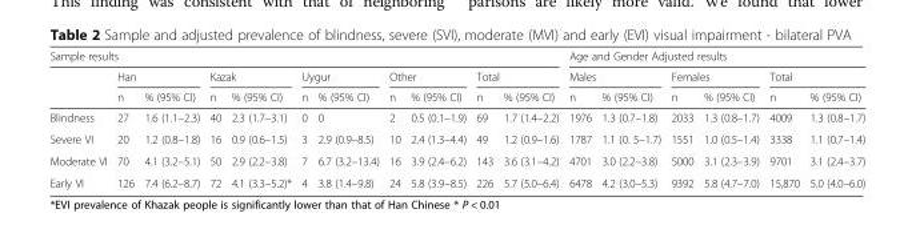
<table><thead><tr><td colspan="11">Sample results</td><td colspan="6">Age and Gender Adjusted results</td></tr><tr><td rowspan="2"></td><td colspan="2">Han</td><td colspan="2">Kazak</td><td colspan="2">Uygur</td><td colspan="2">Other</td><td colspan="2">Total</td><td colspan="2">Males</td><td colspan="2">Females</td><td colspan="2">Total</td></tr><tr><td>n</td><td>% (95% CI)</td><td>n</td><td>% (95% CI)</td><td>n</td><td>% (95% CI)</td><td>n</td><td>% (95% CI)</td><td>n</td><td>% (95% CI)</td><td>n</td><td>% (95% CI)</td><td>n</td><td>% (95% CI)</td><td>n</td><td>% (95% CI)</td></tr></thead><tbody><tr><td>Blindness</td><td>27</td><td>1.6 (1.1–2.3)</td><td>40</td><td>2.3 (1.7–3.1)</td><td>0</td><td>0</td><td>2</td><td>0.5 (0.1–1.9)</td><td>69</td><td>1.7 (1.4–2.2)</td><td>1976</td><td>1.3 (0.7–1.8)</td><td>2033</td><td>1.3 (0.8–1.7)</td><td>4009</td><td>1.3 (0.8–1.7)</td></tr><tr><td>Severe VI</td><td>20</td><td>1.2 (0.8–1.8)</td><td>16</td><td>0.9 (0.6–1.5)</td><td>3</td><td>2.9 (0.9–8.5)</td><td>10</td><td>2.4 (1.3–4.4)</td><td>49</td><td>1.2 (0.9–1.6)</td><td>1787</td><td>1.1 (0. 5–1.7)</td><td>1551</td><td>1.0 (0.5–1.4)</td><td>3338</td><td>1.1 (0.7–1.4)</td></tr><tr><td>Moderate VI</td><td>70</td><td>4.1 (3.2–5.1)</td><td>50</td><td>2.9 (2.2–3.8)</td><td>7</td><td>6.7 (3.2–13.4)</td><td>16</td><td>3.9 (2.4–6.2)</td><td>143</td><td>3.6 (3.1–4.2)</td><td>4701</td><td>3.0 (2.2–3.8)</td><td>5000</td><td>3.1 (2.3–3.9)</td><td>9701</td><td>3.1 (2.4–3.7)</td></tr><tr><td>Early VI</td><td>126</td><td>7.4 (6.2–8.7)</td><td>72</td><td>4.1 (3.3–5.2)*</td><td>4</td><td>3.8 (1.4–9.8)</td><td>24</td><td>5.8 (3.9–8.5)</td><td>226</td><td>5.7 (5.0–6.4)</td><td>6478</td><td>4.2 (3.0–5.3)</td><td>9392</td><td>5.8 (4.7–7.0)</td><td>15,870</td><td>5.0 (4.0–6.0)</td></tr></tbody></table>